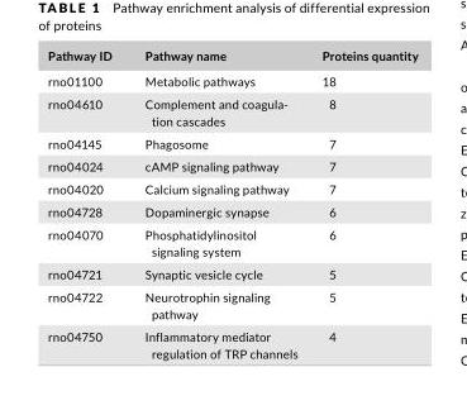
<table><thead><tr><td>Pathway ID</td><td>Pathway name</td><td>Proteins quantity</td></tr></thead><tbody><tr><td>rno01100</td><td>Metabolic pathways</td><td>18</td></tr><tr><td>rno04610</td><td>Complement and coagula- tion cascades</td><td>8</td></tr><tr><td>rno04145</td><td>Phagosome</td><td>7</td></tr><tr><td>rno04024</td><td>cAMP signaling pathway</td><td>7</td></tr><tr><td>rno04020</td><td>Calcium signaling pathway</td><td>7</td></tr><tr><td>rno04728</td><td>Dopaminergic synapse</td><td>6</td></tr><tr><td>rno04070</td><td>Phosphatidylinositol signaling system</td><td>6</td></tr><tr><td>rno04721</td><td>Synaptic vesicle cycle</td><td>5</td></tr><tr><td>rno04722</td><td>Neurotrophin signaling pathway</td><td>5</td></tr><tr><td>rno04750</td><td>Inflammatory mediator regulation of TRP channels</td><td>4</td></tr></tbody></table>